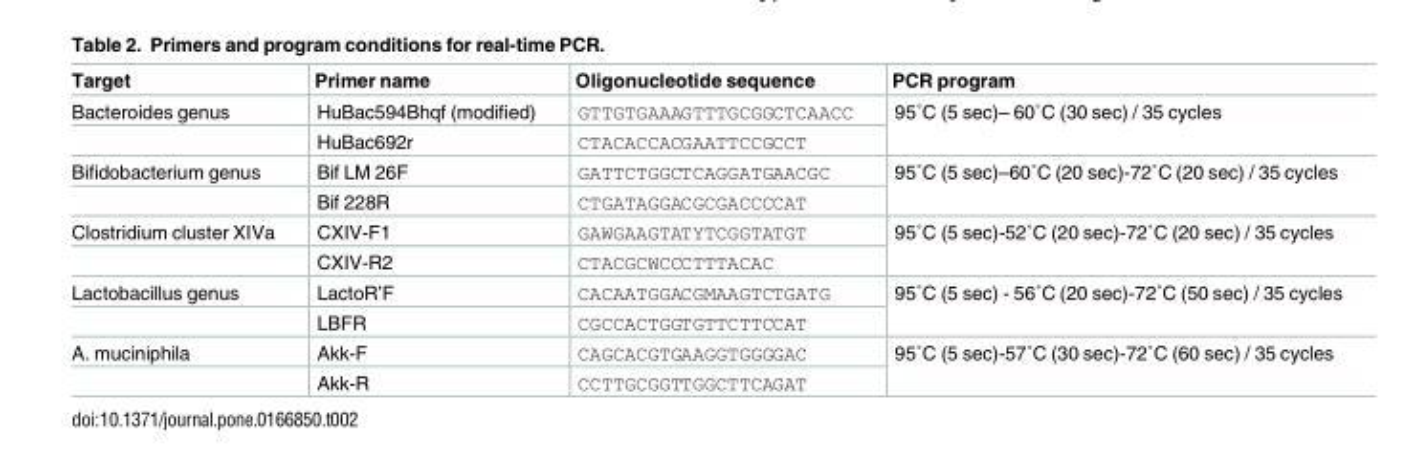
<table><thead><tr><td>Target</td><td>Primer name</td><td>Oligonucleotide sequence</td><td>PCR program</td></tr></thead><tbody><tr><td rowspan="2">Bacteroides genus</td><td>HuBac594Bhqf (modified)</td><td>GTTGTGAAAGTTTGCGGCTCAACC</td><td rowspan="2">95˚C (5 sec)– 60˚C (30 sec) / 35 cycles</td></tr><tr><td>HuBac692r</td><td>CTACACCACGAATTCCGCCT</td></tr><tr><td rowspan="2">Bifidobacterium genus</td><td>Bif LM 26F</td><td>GATTCTGGCTCAGGATGAACGC</td><td rowspan="2">95˚C (5 sec)–60˚C (20 sec)-72˚C (20 sec) / 35 cycles</td></tr><tr><td>Bif 228R</td><td>CTGATAGGACGCGACCCCAT</td></tr><tr><td rowspan="2">Clostridium cluster XIVa</td><td>CXIV-F1</td><td>GAWGAAGTATYTCGGTATGT</td><td rowspan="2">95˚C (5 sec)-52˚C (20 sec)-72˚C (20 sec) / 35 cycles</td></tr><tr><td>CXIV-R2</td><td>CTACGCWCCCTTTACAC</td></tr><tr><td rowspan="2">Lactobacillus genus</td><td>LactoR’F</td><td>CACAATGGACGMAAGTCTGATG</td><td rowspan="2">95˚C (5 sec) - 56˚C (20 sec)-72˚C (50 sec) / 35 cycles</td></tr><tr><td>LBFR</td><td>CGCCACTGGTGTTCTTCCAT</td></tr><tr><td rowspan="2">A. muciniphila</td><td>Akk-F</td><td>CAGCACGTGAAGGTGGGGAC</td><td rowspan="2">95˚C (5 sec)-57˚C (30 sec)-72˚C (60 sec) / 35 cycles</td></tr><tr><td>Akk-R</td><td>CCTTGCGGTTGGCTTCAGAT</td></tr></tbody></table>